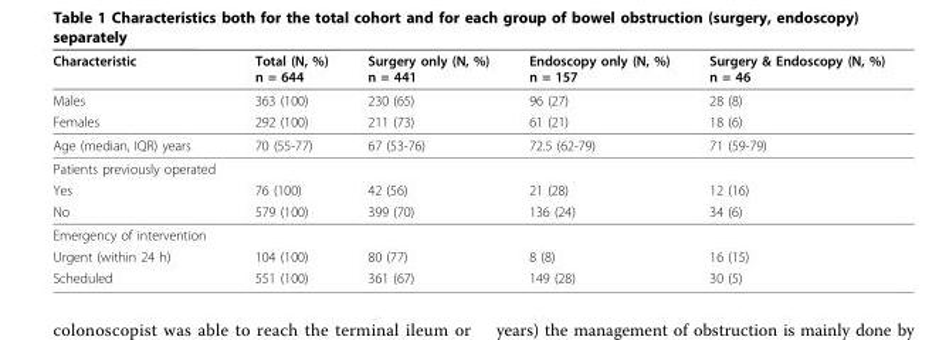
<table><thead><tr><td>Characteristic</td><td>Total (N, %) n = 644</td><td>Surgery only (N, %) n = 441</td><td>Endoscopy only (N, %) n = 157</td><td>Surgery &amp; Endoscopy (N, %) n = 46</td></tr></thead><tbody><tr><td>Males</td><td>363 (100)</td><td>230 (65)</td><td>96 (27)</td><td>28 (8)</td></tr><tr><td>Females</td><td>292 (100)</td><td>211 (73)</td><td>61 (21)</td><td>18 (6)</td></tr><tr><td>Age (median, IQR) years</td><td>70 (55-77)</td><td>67 (53-76)</td><td>72.5 (62-79)</td><td>71 (59-79)</td></tr><tr><td colspan="5">Patients previously operated</td></tr><tr><td>Yes</td><td>76 (100)</td><td>42 (56)</td><td>21 (28)</td><td>12 (16)</td></tr><tr><td>No</td><td>579 (100)</td><td>399 (70)</td><td>136 (24)</td><td>34 (6)</td></tr><tr><td colspan="5">Emergency of intervention</td></tr><tr><td>Urgent (within 24 h)</td><td>104 (100)</td><td>80 (77)</td><td>8 (8)</td><td>16 (15)</td></tr><tr><td>Scheduled</td><td>551 (100)</td><td>361 (67)</td><td>149 (28)</td><td>30 (5)</td></tr></tbody></table>